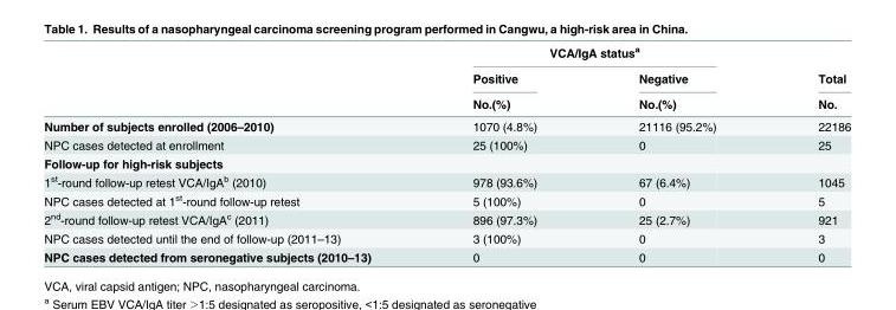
<table><thead><tr><td rowspan="3"></td><td colspan="2">VCA/IgA status<sup>a</sup></td><td rowspan="3">Total No.</td></tr><tr><td rowspan="2">Positive No.(%)</td><td rowspan="2">Negative No.(%)</td></tr><tr></tr></thead><tbody><tr><td>Number of subjects enrolled (2006–2010)</td><td>1070 (4.8%)</td><td>21116 (95.2%)</td><td>22186</td></tr><tr><td>NPC cases detected at enrollment</td><td>25 (100%)</td><td>0</td><td>25</td></tr><tr><td colspan="4">Follow-up for high-risk subjects</td></tr><tr><td>1<sup>st</sup>-round follow-up retest VCA/IgA<sup>b</sup> (2010)</td><td>978 (93.6%)</td><td>67 (6.4%)</td><td>1045</td></tr><tr><td>NPC cases detected at 1<sup>st</sup>-round follow-up retest</td><td>5 (100%)</td><td>0</td><td>5</td></tr><tr><td>2<sup>nd</sup>-round follow-up retest VCA/IgA<sup>c</sup> (2011)</td><td>896 (97.3%)</td><td>25 (2.7%)</td><td>921</td></tr><tr><td>NPC cases detected until the end of follow-up (2011–13)</td><td>3 (100%)</td><td>0</td><td>3</td></tr><tr><td>NPC cases detected from seronegative subjects (2010–13)</td><td>0</td><td>0</td><td>0</td></tr></tbody></table>